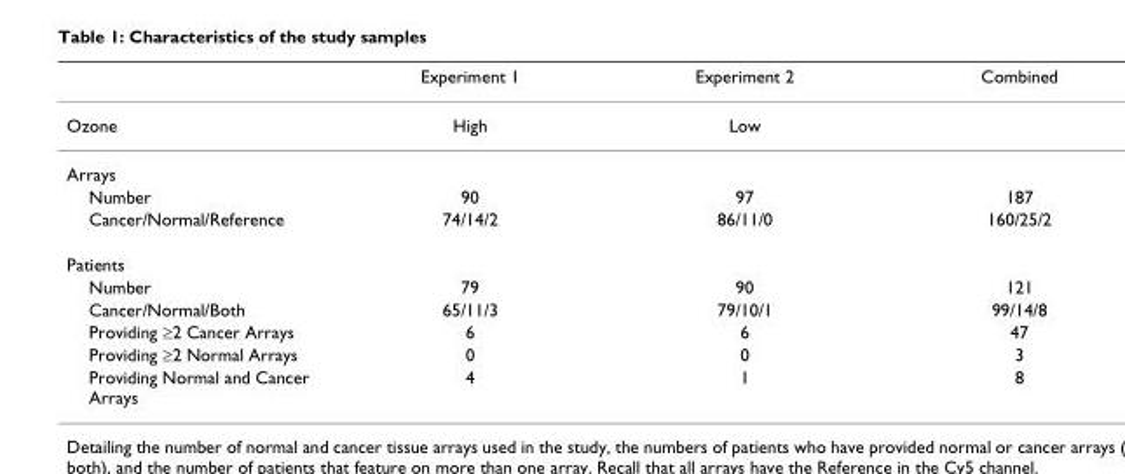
<table><thead><tr><td></td><td>Experiment 1</td><td>Experiment 2</td><td>Combined</td></tr></thead><tbody><tr><td>Ozone</td><td>High</td><td>Low</td><td></td></tr><tr><td colspan="4">Arrays</td></tr><tr><td>Number</td><td>90</td><td>97</td><td>187</td></tr><tr><td>Cancer/Normal/Reference</td><td>74/14/2</td><td>86/11/0</td><td>160/25/2</td></tr><tr><td colspan="4">Patients</td></tr><tr><td>Number</td><td>79</td><td>90</td><td>121</td></tr><tr><td>Cancer/Normal/Both</td><td>65/11/3</td><td>79/10/1</td><td>99/14/8</td></tr><tr><td>Providing ≥2 Cancer Arrays</td><td>6</td><td>6</td><td>47</td></tr><tr><td>Providing ≥2 Normal Arrays</td><td>0</td><td>0</td><td>3</td></tr><tr><td>Providing Normal and Cancer Arrays</td><td>4</td><td>1</td><td>8</td></tr></tbody></table>